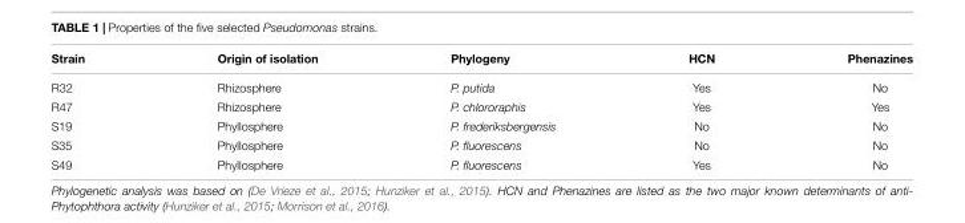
<table><thead><tr><td>Strain</td><td>Origin of isolation</td><td>Phylogeny</td><td>HCN</td><td>Phenazines</td></tr></thead><tbody><tr><td>R32</td><td>Rhizosphere</td><td>P. putida</td><td>Yes</td><td>No</td></tr><tr><td>R47</td><td>Rhizosphere</td><td>P. chlororaphis</td><td>Yes</td><td>Yes</td></tr><tr><td>S19</td><td>Phyllosphere</td><td>P. frederiksbergensis</td><td>No</td><td>No</td></tr><tr><td>S35</td><td>Phyllosphere</td><td>P. fluorescens</td><td>No</td><td>No</td></tr><tr><td>S49</td><td>Phyllosphere</td><td>P. fluorescens</td><td>Yes</td><td>No</td></tr></tbody></table>